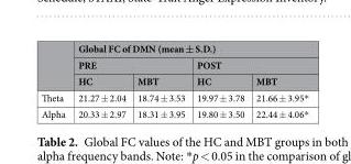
<table><thead><tr><td rowspan="3"></td><td colspan="4">Global FC of DMN (mean ± S.D.)</td></tr><tr><td colspan="2">PRE</td><td colspan="2">POST</td></tr><tr><td>HC</td><td>MBT</td><td>HC</td><td>MBT</td></tr></thead><tbody><tr><td>Theta</td><td>21.27 ± 2.04</td><td>18.74 ± 3.53</td><td>19.97 ± 3.78</td><td>21.66 ± 3.95*</td></tr><tr><td>Alpha</td><td>20.33 ± 2.97</td><td>18.31 ± 3.95</td><td>19.80 ± 3.50</td><td>22.44 ± 4.06*</td></tr></tbody></table>